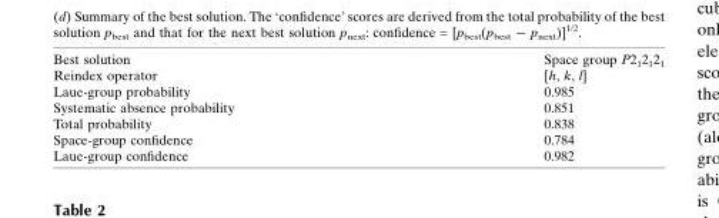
<table><tbody><tr><td>Best solution</td><td>Space group P2<sub>1</sub>2<sub>1</sub>2<sub>1</sub></td></tr><tr><td>Reindex operator</td><td>[h, k, l]</td></tr><tr><td>Laue-group probability</td><td>0.985</td></tr><tr><td>Systematic absence probability</td><td>0.851</td></tr><tr><td>Total probability</td><td>0.838</td></tr><tr><td>Space-group confidence</td><td>0.784</td></tr><tr><td>Laue-group confidence</td><td>0.982</td></tr></tbody></table>